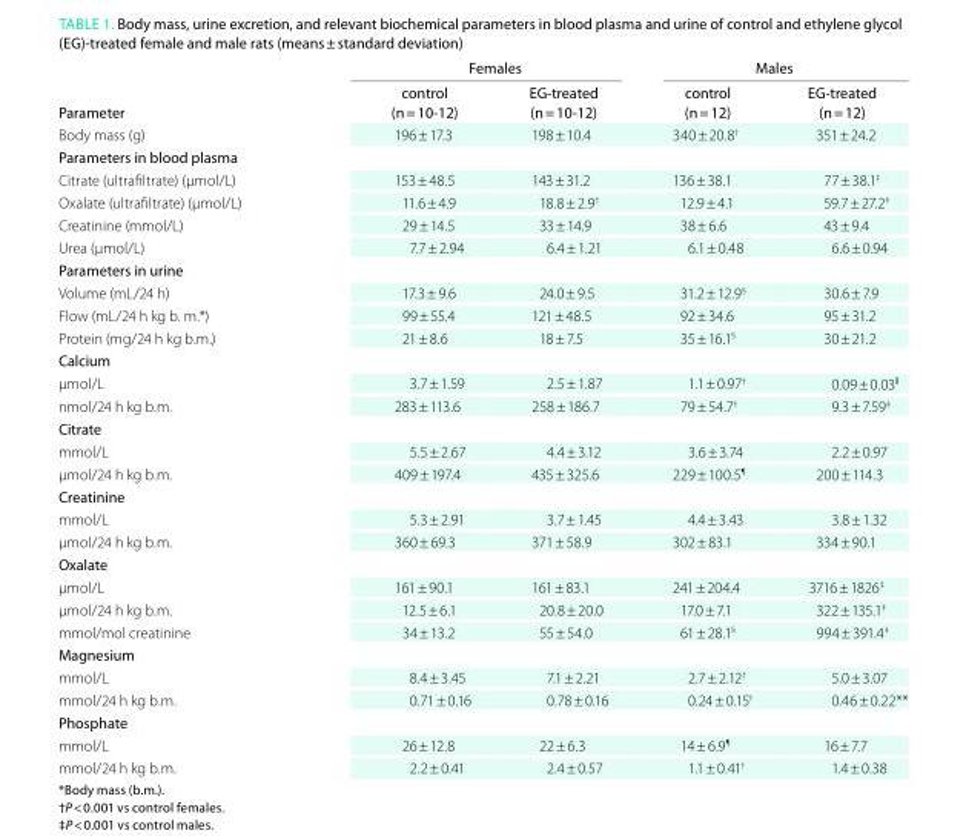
<table><thead><tr><td rowspan="2">Parameter</td><td colspan="2">Females</td><td colspan="2">Males</td></tr><tr><td>control (n = 10-12)</td><td>eG-treated (n = 10-12)</td><td>control (n = 12)</td><td>eG-treated (n = 12)</td></tr></thead><tbody><tr><td>Body mass (g)</td><td>196 ± 17.3</td><td>198 ± 10.4</td><td>340 ± 20.8<sup>†</sup></td><td>351 ± 24.2</td></tr><tr><td colspan="5">Parameters in blood plasma</td></tr><tr><td>Citrate (ultrafiltrate) (µmol/L)</td><td>153 ± 48.5</td><td>143 ± 31.2</td><td>136 ± 38.1</td><td>77 ± 38.1<sup>‡</sup></td></tr><tr><td>Oxalate (ultrafiltrate) (µmol/L)</td><td>11.6 ± 4.9</td><td>18.8 ± 2.9<sup>†</sup></td><td>12.9 ± 4.1</td><td>59.7 ± 27.2<sup>‡</sup></td></tr><tr><td>Creatinine (mmol/L)</td><td>29 ± 14.5</td><td>33 ± 14.9</td><td>38 ± 6.6</td><td>43 ± 9.4</td></tr><tr><td>Urea (μmol/L)</td><td>7.7 ± 2.94</td><td>6.4 ± 1.21</td><td>6.1 ± 0.48</td><td>6.6 ± 0.94</td></tr><tr><td colspan="5">Parameters in urine</td></tr><tr><td>Volume (mL/24 h)</td><td>17.3 ± 9.6</td><td>24.0 ± 9.5</td><td>31.2 ± 12.9<sup>§</sup></td><td>30.6 ± 7.9</td></tr><tr><td>Flow (mL/24 h kg b. m.*)</td><td>99 ± 55.4</td><td>121 ± 48.5</td><td>92 ± 34.6</td><td>95 ± 31.2</td></tr><tr><td>Protein (mg/24 h kg b.m.)</td><td>21 ± 8.6</td><td>18 ± 7.5</td><td>35 ± 16.1<sup>§</sup></td><td>30 ± 21.2</td></tr><tr><td colspan="5">Calcium</td></tr><tr><td>μmol/L</td><td>3.7 ± 1.59</td><td>2.5 ± 1.87</td><td>1.1 ± 0.97<sup>†</sup></td><td>0.09 ± 0.03<sup>ǁ</sup></td></tr><tr><td>nmol/24 h kg b.m.</td><td>283 ± 113.6</td><td>258 ± 186.7</td><td>79 ± 54.7<sup>†</sup></td><td>9.3 ± 7.59<sup>‡</sup></td></tr><tr><td colspan="5">Citrate</td></tr><tr><td>mmol/L</td><td>5.5 ± 2.67</td><td>4.4 ± 3.12</td><td>3.6 ± 3.74</td><td>2.2 ± 0.97</td></tr><tr><td>μmol/24 h kg b.m.</td><td>409 ± 197.4</td><td>435 ± 325.6</td><td>229 ± 100.5<sup>¶</sup></td><td>200 ± 114.3</td></tr><tr><td colspan="5">Creatinine</td></tr><tr><td>mmol/L</td><td>5.3 ± 2.91</td><td>3.7 ± 1.45</td><td>4.4 ± 3.43</td><td>3.8 ± 1.32</td></tr><tr><td>μmol/24 h kg b.m.</td><td>360 ± 69.3</td><td>371 ± 58.9</td><td>302 ± 83.1</td><td>334 ± 90.1</td></tr><tr><td colspan="5">oxalate</td></tr><tr><td>µmol/L</td><td>161 ± 90.1</td><td>161 ± 83.1</td><td>241 ± 204.4</td><td>3716 ± 1826<sup>‡</sup></td></tr><tr><td>µmol/24 h kg b.m.</td><td>12.5 ± 6.1</td><td>20.8 ± 20.0</td><td>17.0 ± 7.1</td><td>322 ± 135.1<sup>‡</sup></td></tr><tr><td>mmol/mol creatinine</td><td>34 ± 13.2</td><td>55 ± 54.0</td><td>61 ± 28.1<sup>§</sup></td><td>994 ± 391.4<sup>‡</sup></td></tr><tr><td colspan="5">Magnesium</td></tr><tr><td>mmol/L</td><td>8.4 ± 3.45</td><td>7.1 ± 2.21</td><td>2.7 ± 2.12<sup>†</sup></td><td>5.0 ± 3.07</td></tr><tr><td>mmol/24 h kg b.m.</td><td>0.71 ± 0.16</td><td>0.78 ± 0.16</td><td>0.24 ± 0.15<sup>†</sup></td><td>0.46 ± 0.22**</td></tr><tr><td colspan="5">Phosphate</td></tr><tr><td>mmol/L</td><td>26 ± 12.8</td><td>22 ± 6.3</td><td>14 ± 6.9<sup>¶</sup></td><td>16 ± 7.7</td></tr><tr><td>mmol/24 h kg b.m.</td><td>2.2 ± 0.41</td><td>2.4 ± 0.57</td><td>1.1 ± 0.41<sup>†</sup></td><td>1.4 ± 0.38</td></tr></tbody></table>